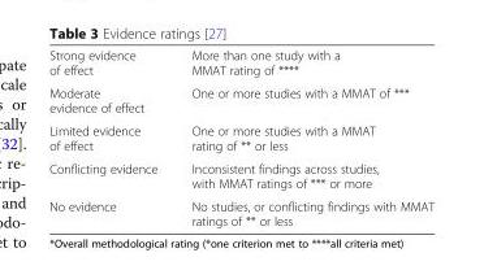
<table><tbody><tr><td>Strong evidence of effect</td><td>More than one study with a MMAT rating of ****</td></tr><tr><td>Moderate evidence of effect</td><td>One or more studies with a MMAT of ***</td></tr><tr><td>Limited evidence of effect</td><td>One or more studies with a MMAT rating of ** or less</td></tr><tr><td>Conflicting evidence</td><td>Inconsistent findings across studies, with MMAT ratings of *** or more</td></tr><tr><td>No evidence</td><td>No studies, or conflicting findings with MMAT ratings of ** or less</td></tr></tbody></table>